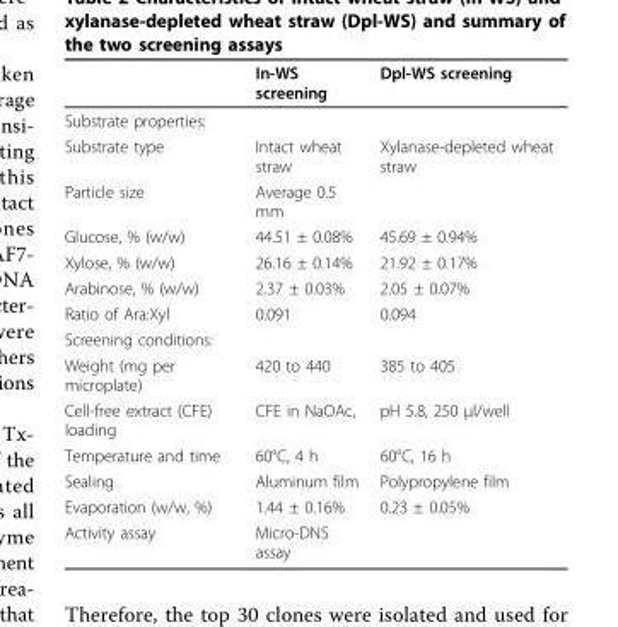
<table><thead><tr><td></td><td>In-WS screening</td><td>Dpl-WS screening</td></tr></thead><tbody><tr><td colspan="3">Substrate properties:</td></tr><tr><td>Substrate type</td><td>Intact wheat straw</td><td>Xylanase-depleted wheat straw</td></tr><tr><td>Particle size</td><td>Average 0.5 mm</td><td></td></tr><tr><td>Glucose, % (w/w)</td><td>44.51 ± 0.08%</td><td>45.69 ± 0.94%</td></tr><tr><td>Xylose, % (w/w)</td><td>26.16 ± 0.14%</td><td>21.92 ± 0.17%</td></tr><tr><td>Arabinose, % (w/w)</td><td>2.37 ± 0.03%</td><td>2.05 ± 0.07%</td></tr><tr><td>Ratio of Ara:Xyl</td><td>0.091</td><td>0.094</td></tr><tr><td colspan="3">Screening conditions:</td></tr><tr><td>Weight (mg per microplate)</td><td>420 to 440</td><td>385 to 405</td></tr><tr><td>Cell-free extract (CFE) loading</td><td>CFE in NaOAc,</td><td>pH 5.8, 250 μl/well</td></tr><tr><td>Temperature and time</td><td>60°C, 4 h</td><td>60°C, 16 h</td></tr><tr><td>Sealing</td><td>Aluminum film</td><td>Polypropylene film</td></tr><tr><td>Evaporation (w/w, %)</td><td>1.44 ± 0.16%</td><td>0.23 ± 0.05%</td></tr><tr><td>Activity assay</td><td>Micro-DNS assay</td><td></td></tr></tbody></table>